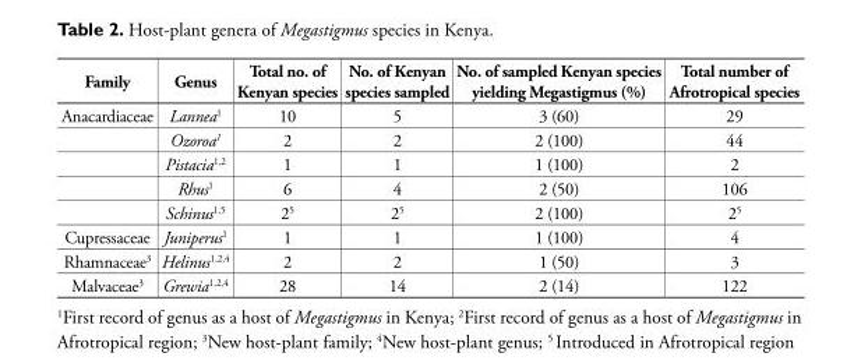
<table><thead><tr><td>Family</td><td>Genus</td><td>Total no. of Kenyan species</td><td>No. of Kenyan species sampled</td><td>No. of sampled Kenyan species yielding Megastigmus (%)</td><td>Total number of Afrotropical species</td></tr></thead><tbody><tr><td rowspan="5">Anacardiaceae</td><td>Lannea<sup>1</sup></td><td>10</td><td>5</td><td>3 (60)</td><td>29</td></tr><tr><td>Ozoroa<sup>1</sup></td><td>2</td><td>2</td><td>2 (100)</td><td>44</td></tr><tr><td>Pistacia<sup>1,2</sup></td><td>1</td><td>1</td><td>1 (100)</td><td>2</td></tr><tr><td>Rhus<sup>1</sup></td><td>6</td><td>4</td><td>2 (50)</td><td>106</td></tr><tr><td>Schinus<sup>1,5</sup></td><td>2<sup>5</sup></td><td>2<sup>5</sup></td><td>2 (100)</td><td>2<sup>5</sup></td></tr><tr><td>Cupressaceae</td><td>Juniperus<sup>1</sup></td><td>1</td><td>1</td><td>1 (100)</td><td>4</td></tr><tr><td>Rhamnaceae<sup>3</sup></td><td>Helinus<sup>1,2,4</sup></td><td>2</td><td>2</td><td>1 (50)</td><td>3</td></tr><tr><td>Malvaceae<sup>3</sup></td><td>Grewia<sup>1,2,4</sup></td><td>28</td><td>14</td><td>2 (14)</td><td>122</td></tr></tbody></table>